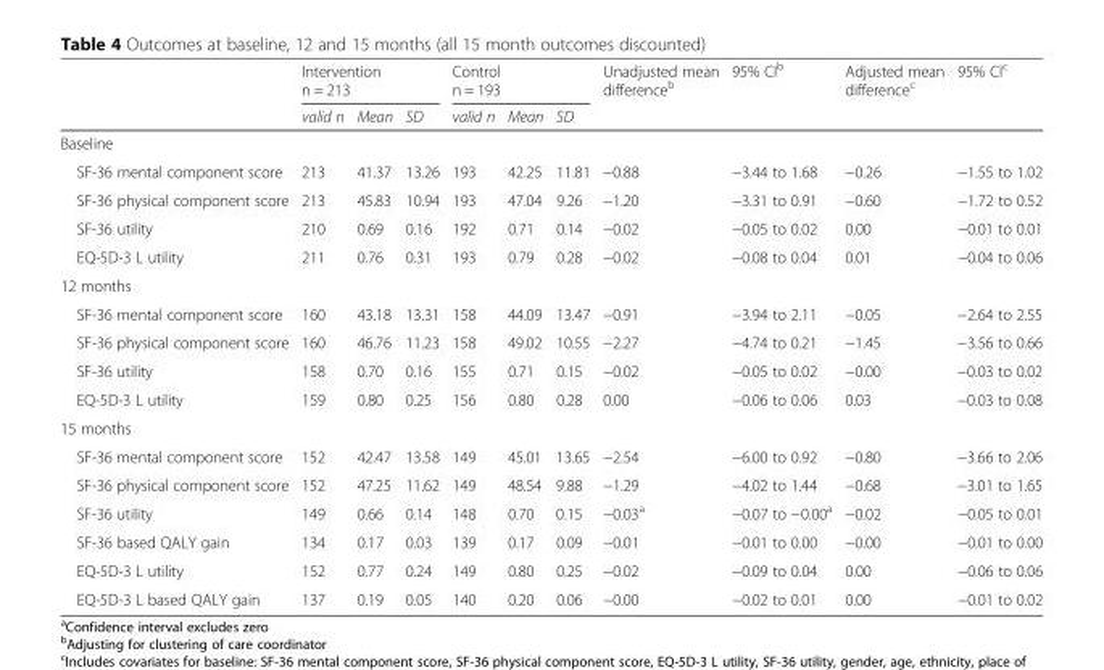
<table><thead><tr><td rowspan="2"></td><td colspan="3">Intervention n = 213</td><td colspan="3">Control n = 193</td><td rowspan="2">Unadjusted mean difference<sup>b</sup></td><td rowspan="2">95% CI<sup>b</sup></td><td rowspan="2">Adjusted mean difference<sup>c</sup></td><td rowspan="2">95% CI<sup>c</sup></td></tr><tr><td>valid n</td><td>Mean</td><td>SD</td><td>valid n</td><td>Mean</td><td>SD</td></tr></thead><tbody><tr><td colspan="11">Baseline</td></tr><tr><td>SF-36 mental component score</td><td>213</td><td>41.37</td><td>13.26</td><td>193</td><td>42.25</td><td>11.81</td><td>−0.88</td><td>−3.44 to 1.68</td><td>−0.26</td><td>−1.55 to 1.02</td></tr><tr><td>SF-36 physical component score</td><td>213</td><td>45.83</td><td>10.94</td><td>193</td><td>47.04</td><td>9.26</td><td>−1.20</td><td>−3.31 to 0.91</td><td>−0.60</td><td>−1.72 to 0.52</td></tr><tr><td>SF-36 utility</td><td>210</td><td>0.69</td><td>0.16</td><td>192</td><td>0.71</td><td>0.14</td><td>−0.02</td><td>−0.05 to 0.02</td><td>0.00</td><td>−0.01 to 0.01</td></tr><tr><td>EQ-5D-3 L utility</td><td>211</td><td>0.76</td><td>0.31</td><td>193</td><td>0.79</td><td>0.28</td><td>−0.02</td><td>−0.08 to 0.04</td><td>0.01</td><td>−0.04 to 0.06</td></tr><tr><td colspan="11">12 months</td></tr><tr><td>SF-36 mental component score</td><td>160</td><td>43.18</td><td>13.31</td><td>158</td><td>44.09</td><td>13.47</td><td>−0.91</td><td>−3.94 to 2.11</td><td>−0.05</td><td>−2.64 to 2.55</td></tr><tr><td>SF-36 physical component score</td><td>160</td><td>46.76</td><td>11.23</td><td>158</td><td>49.02</td><td>10.55</td><td>−2.27</td><td>−4.74 to 0.21</td><td>−1.45</td><td>−3.56 to 0.66</td></tr><tr><td>SF-36 utility</td><td>158</td><td>0.70</td><td>0.16</td><td>155</td><td>0.71</td><td>0.15</td><td>−0.02</td><td>−0.05 to 0.02</td><td>−0.00</td><td>−0.03 to 0.02</td></tr><tr><td>EQ-5D-3 L utility</td><td>159</td><td>0.80</td><td>0.25</td><td>156</td><td>0.80</td><td>0.28</td><td>0.00</td><td>−0.06 to 0.06</td><td>0.03</td><td>−0.03 to 0.08</td></tr><tr><td colspan="11">15 months</td></tr><tr><td>SF-36 mental component score</td><td>152</td><td>42.47</td><td>13.58</td><td>149</td><td>45.01</td><td>13.65</td><td>−2.54</td><td>−6.00 to 0.92</td><td>−0.80</td><td>−3.66 to 2.06</td></tr><tr><td>SF-36 physical component score</td><td>152</td><td>47.25</td><td>11.62</td><td>149</td><td>48.54</td><td>9.88</td><td>−1.29</td><td>−4.02 to 1.44</td><td>−0.68</td><td>−3.01 to 1.65</td></tr><tr><td>SF-36 utility</td><td>149</td><td>0.66</td><td>0.14</td><td>148</td><td>0.70</td><td>0.15</td><td>−0.03<sup>a</sup></td><td>−0.07 to −0.00<sup>a</sup></td><td>−0.02</td><td>−0.05 to 0.01</td></tr><tr><td>SF-36 based QALY gain</td><td>134</td><td>0.17</td><td>0.03</td><td>139</td><td>0.17</td><td>0.09</td><td>−0.01</td><td>−0.01 to 0.00</td><td>−0.00</td><td>−0.01 to 0.00</td></tr><tr><td>EQ-5D-3 L utility</td><td>152</td><td>0.77</td><td>0.24</td><td>149</td><td>0.80</td><td>0.25</td><td>−0.02</td><td>−0.09 to 0.04</td><td>0.00</td><td>−0.06 to 0.06</td></tr><tr><td>EQ-5D-3 L based QALY gain</td><td>137</td><td>0.19</td><td>0.05</td><td>140</td><td>0.20</td><td>0.06</td><td>−0.00</td><td>−0.02 to 0.01</td><td>0.00</td><td>−0.01 to 0.02</td></tr></tbody></table>